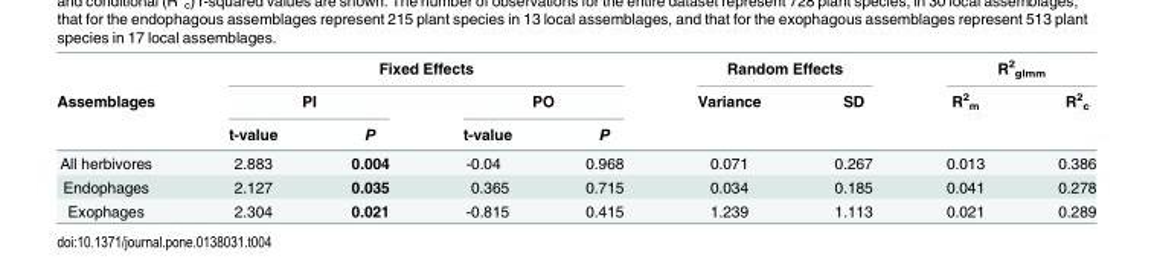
<table><thead><tr><td rowspan="3">Assemblages</td><td colspan="4">Fixed Effects</td><td colspan="2">Random Effects</td><td colspan="2">R<sup>2</sup> <sub>glmm</sub></td></tr><tr><td colspan="2">PI</td><td colspan="2">PO</td><td rowspan="2">Variance</td><td rowspan="2">SD</td><td rowspan="2">R<sup>2</sup> <sub>m</sub></td><td rowspan="2">R<sup>2</sup> <sub>c</sub></td></tr><tr><td>t-value</td><td>P</td><td>t-value</td><td>P</td></tr></thead><tbody><tr><td>All herbivores</td><td>2.883</td><td>0.004</td><td>-0.04</td><td>0.968</td><td>0.071</td><td>0.267</td><td>0.013</td><td>0.386</td></tr><tr><td>Endophages</td><td>2.127</td><td>0.035</td><td>0.365</td><td>0.715</td><td>0.034</td><td>0.185</td><td>0.041</td><td>0.278</td></tr><tr><td>Exophages</td><td>2.304</td><td>0.021</td><td>-0.815</td><td>0.415</td><td>1.239</td><td>1.113</td><td>0.021</td><td>0.289</td></tr></tbody></table>